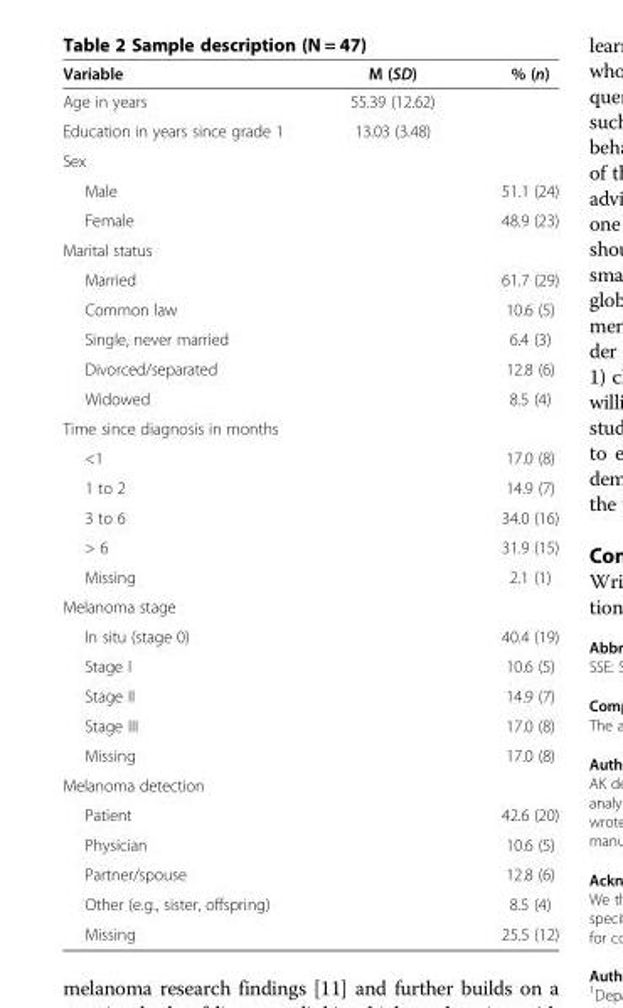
<table><thead><tr><td>Variable</td><td>M (SD)</td><td>% (n)</td></tr></thead><tbody><tr><td>Age in years</td><td>55.39 (12.62)</td><td></td></tr><tr><td>Education in years since grade 1</td><td>13.03 (3.48)</td><td></td></tr><tr><td colspan="3">Sex</td></tr><tr><td>Male</td><td></td><td>51.1 (24)</td></tr><tr><td>Female</td><td></td><td>48.9 (23)</td></tr><tr><td colspan="3">Marital status</td></tr><tr><td>Married</td><td></td><td>61.7 (29)</td></tr><tr><td>Common law</td><td></td><td>10.6 (5)</td></tr><tr><td>Single, never married</td><td></td><td>6.4 (3)</td></tr><tr><td>Divorced/separated</td><td></td><td>12.8 (6)</td></tr><tr><td>Widowed</td><td></td><td>8.5 (4)</td></tr><tr><td colspan="3">Time since diagnosis in months</td></tr><tr><td>&lt;1</td><td></td><td>17.0 (8)</td></tr><tr><td>1 to 2</td><td></td><td>14.9 (7)</td></tr><tr><td>3 to 6</td><td></td><td>34.0 (16)</td></tr><tr><td>&gt; 6</td><td></td><td>31.9 (15)</td></tr><tr><td>Missing</td><td></td><td>2.1 (1)</td></tr><tr><td colspan="3">Melanoma stage</td></tr><tr><td>In situ (stage 0)</td><td></td><td>40.4 (19)</td></tr><tr><td>Stage I</td><td></td><td>10.6 (5)</td></tr><tr><td>Stage II</td><td></td><td>14.9 (7)</td></tr><tr><td>Stage III</td><td></td><td>17.0 (8)</td></tr><tr><td>Missing</td><td></td><td>17.0 (8)</td></tr><tr><td colspan="3">Melanoma detection</td></tr><tr><td>Patient</td><td></td><td>42.6 (20)</td></tr><tr><td>Physician</td><td></td><td>10.6 (5)</td></tr><tr><td>Partner/spouse</td><td></td><td>12.8 (6)</td></tr><tr><td>Other (e.g., sister, offspring)</td><td></td><td>8.5 (4)</td></tr><tr><td>Missing</td><td></td><td>25.5 (12)</td></tr></tbody></table>